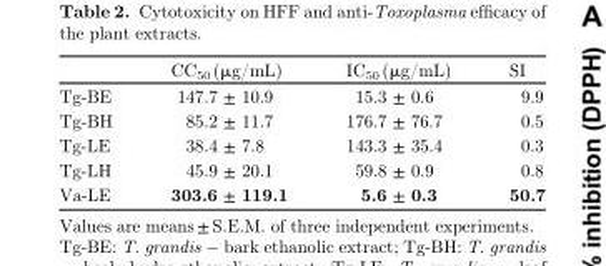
<table><thead><tr><td></td><td>CC<sub>50</sub> (μg/mL)</td><td>IC<sub>50</sub> (μg/mL)</td><td>SI</td></tr></thead><tbody><tr><td>Tg-BE</td><td>147.7 ± 10.9</td><td>15.3 ± 0.6</td><td>9.9</td></tr><tr><td>Tg-BH</td><td>85.2 ± 11.7</td><td>176.7 ± 76.7</td><td>0.5</td></tr><tr><td>Tg-LE</td><td>38.4 ± 7.8</td><td>143.3 ± 35.4</td><td>0.3</td></tr><tr><td>Tg-LH</td><td>45.9 ± 20.1</td><td>59.8 ± 0.9</td><td>0.8</td></tr><tr><td>Va-LE</td><td>303.6 ± 119.1</td><td>5.6 ± 0.3</td><td>50.7</td></tr></tbody></table>